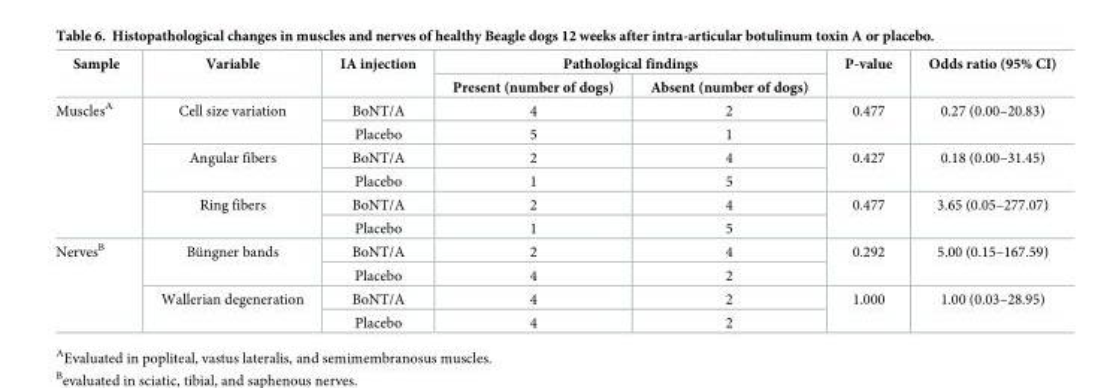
<table><thead><tr><td rowspan="2">Sample</td><td rowspan="2">Variable</td><td rowspan="2">IA injection</td><td colspan="2">Pathological findings</td><td rowspan="2">P-value</td><td rowspan="2">Odds ratio (95% CI)</td></tr><tr><td>Present (number of dogs)</td><td>Absent (number of dogs)</td></tr></thead><tbody><tr><td rowspan="6">Muscles<sup>A</sup></td><td rowspan="2">Cell size variation</td><td>BoNT/A</td><td>4</td><td>2</td><td rowspan="2">0.477</td><td rowspan="2">0.27 (0.00–20.83)</td></tr><tr><td>Placebo</td><td>5</td><td>1</td></tr><tr><td rowspan="2">Angular fibers</td><td>BoNT/A</td><td>2</td><td>4</td><td rowspan="2">0.427</td><td rowspan="2">0.18 (0.00–31.45)</td></tr><tr><td>Placebo</td><td>1</td><td>5</td></tr><tr><td rowspan="2">Ring fibers</td><td>BoNT/A</td><td>2</td><td>4</td><td rowspan="2">0.477</td><td rowspan="2">3.65 (0.05–277.07)</td></tr><tr><td>Placebo</td><td>1</td><td>5</td></tr><tr><td rowspan="4">Nerves<sup>B</sup></td><td rowspan="2">Bu¨ngner bands</td><td>BoNT/A</td><td>2</td><td>4</td><td rowspan="2">0.292</td><td rowspan="2">5.00 (0.15–167.59)</td></tr><tr><td>Placebo</td><td>4</td><td>2</td></tr><tr><td rowspan="2">Wallerian degeneration</td><td>BoNT/A</td><td>4</td><td>2</td><td rowspan="2">1.000</td><td rowspan="2">1.00 (0.03–28.95)</td></tr><tr><td>Placebo</td><td>4</td><td>2</td></tr></tbody></table>